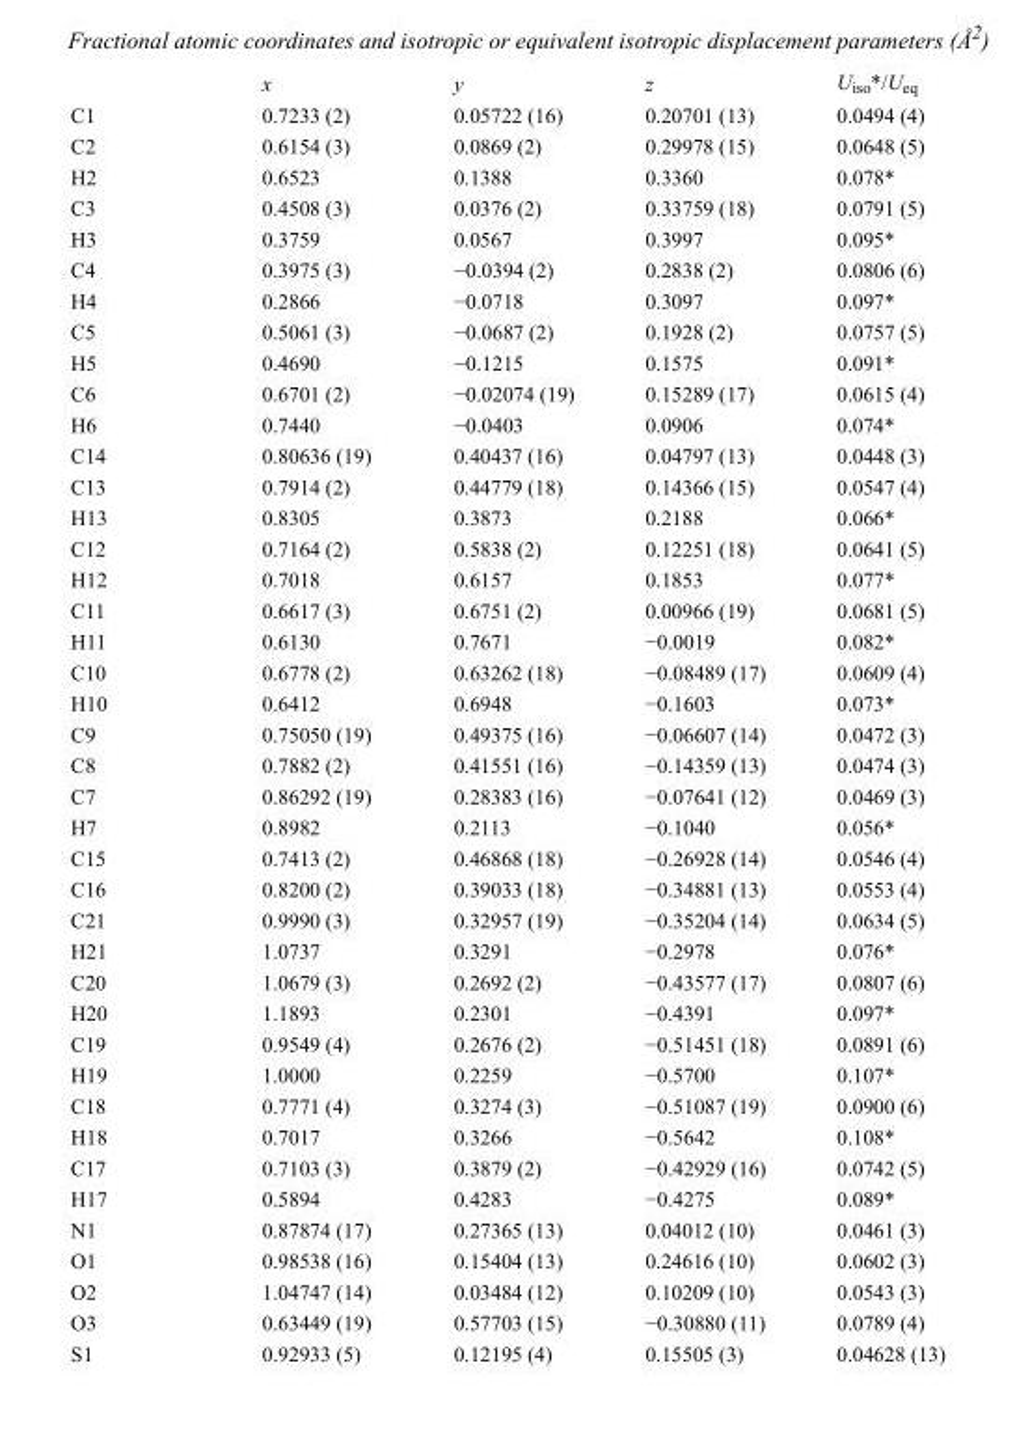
<table><thead><tr><td></td><td>x</td><td>y</td><td>z</td><td>U<sub>iso</sub>*/U<sub>eq</sub></td></tr></thead><tbody><tr><td>C1</td><td>0.7233 (2)</td><td>0.05722 (16)</td><td>0.20701 (13)</td><td>0.0494 (4)</td></tr><tr><td>C2</td><td>0.6154 (3)</td><td>0.0869 (2)</td><td>0.29978 (15)</td><td>0.0648 (5)</td></tr><tr><td>H2</td><td>0.6523</td><td>0.1388</td><td>0.3360</td><td>0.078*</td></tr><tr><td>C3</td><td>0.4508 (3)</td><td>0.0376 (2)</td><td>0.33759 (18)</td><td>0.0791 (5)</td></tr><tr><td>H3</td><td>0.3759</td><td>0.0567</td><td>0.3997</td><td>0.095*</td></tr><tr><td>C4</td><td>0.3975 (3)</td><td>−0.0394 (2)</td><td>0.2838 (2)</td><td>0.0806 (6)</td></tr><tr><td>H4</td><td>0.2866</td><td>−0.0718</td><td>0.3097</td><td>0.097*</td></tr><tr><td>C5</td><td>0.5061 (3)</td><td>−0.0687 (2)</td><td>0.1928 (2)</td><td>0.0757 (5)</td></tr><tr><td>H5</td><td>0.4690</td><td>−0.1215</td><td>0.1575</td><td>0.091*</td></tr><tr><td>C6</td><td>0.6701 (2)</td><td>−0.02074 (19)</td><td>0.15289 (17)</td><td>0.0615 (4)</td></tr><tr><td>H6</td><td>0.7440</td><td>−0.0403</td><td>0.0906</td><td>0.074*</td></tr><tr><td>C14</td><td>0.80636 (19)</td><td>0.40437 (16)</td><td>0.04797 (13)</td><td>0.0448 (3)</td></tr><tr><td>C13</td><td>0.7914 (2)</td><td>0.44779 (18)</td><td>0.14366 (15)</td><td>0.0547 (4)</td></tr><tr><td>H13</td><td>0.8305</td><td>0.3873</td><td>0.2188</td><td>0.066*</td></tr><tr><td>C12</td><td>0.7164 (2)</td><td>0.5838 (2)</td><td>0.12251 (18)</td><td>0.0641 (5)</td></tr><tr><td>H12</td><td>0.7018</td><td>0.6157</td><td>0.1853</td><td>0.077*</td></tr><tr><td>C11</td><td>0.6617 (3)</td><td>0.6751 (2)</td><td>0.00966 (19)</td><td>0.0681 (5)</td></tr><tr><td>H11</td><td>0.6130</td><td>0.7671</td><td>−0.0019</td><td>0.082*</td></tr><tr><td>C10</td><td>0.6778 (2)</td><td>0.63262 (18)</td><td>−0.08489 (17)</td><td>0.0609 (4)</td></tr><tr><td>H10</td><td>0.6412</td><td>0.6948</td><td>−0.1603</td><td>0.073*</td></tr><tr><td>C9</td><td>0.75050 (19)</td><td>0.49375 (16)</td><td>−0.06607 (14)</td><td>0.0472 (3)</td></tr><tr><td>C8</td><td>0.7882 (2)</td><td>0.41551 (16)</td><td>−0.14359 (13)</td><td>0.0474 (3)</td></tr><tr><td>C7</td><td>0.86292 (19)</td><td>0.28383 (16)</td><td>−0.07641 (12)</td><td>0.0469 (3)</td></tr><tr><td>H7</td><td>0.8982</td><td>0.2113</td><td>−0.1040</td><td>0.056*</td></tr><tr><td>C15</td><td>0.7413 (2)</td><td>0.46868 (18)</td><td>−0.26928 (14)</td><td>0.0546 (4)</td></tr><tr><td>C16</td><td>0.8200 (2)</td><td>0.39033 (18)</td><td>−0.34881 (13)</td><td>0.0553 (4)</td></tr><tr><td>C21</td><td>0.9990 (3)</td><td>0.32957 (19)</td><td>−0.35204 (14)</td><td>0.0634 (5)</td></tr><tr><td>H21</td><td>1.0737</td><td>0.3291</td><td>−0.2978</td><td>0.076*</td></tr><tr><td>C20</td><td>1.0679 (3)</td><td>0.2692 (2)</td><td>−0.43577 (17)</td><td>0.0807 (6)</td></tr><tr><td>H20</td><td>1.1893</td><td>0.2301</td><td>−0.4391</td><td>0.097*</td></tr><tr><td>C19</td><td>0.9549 (4)</td><td>0.2676 (2)</td><td>−0.51451 (18)</td><td>0.0891 (6)</td></tr><tr><td>H19</td><td>1.0000</td><td>0.2259</td><td>−0.5700</td><td>0.107*</td></tr><tr><td>C18</td><td>0.7771 (4)</td><td>0.3274 (3)</td><td>−0.51087 (19)</td><td>0.0900 (6)</td></tr><tr><td>H18</td><td>0.7017</td><td>0.3266</td><td>−0.5642</td><td>0.108*</td></tr><tr><td>C17</td><td>0.7103 (3)</td><td>0.3879 (2)</td><td>−0.42929 (16)</td><td>0.0742 (5)</td></tr><tr><td>H17</td><td>0.5894</td><td>0.4283</td><td>−0.4275</td><td>0.089*</td></tr><tr><td>N1</td><td>0.87874 (17)</td><td>0.27365 (13)</td><td>0.04012 (10)</td><td>0.0461 (3)</td></tr><tr><td>O1</td><td>0.98538 (16)</td><td>0.15404 (13)</td><td>0.24616 (10)</td><td>0.0602 (3)</td></tr><tr><td>O2</td><td>1.04747 (14)</td><td>0.03484 (12)</td><td>0.10209 (10)</td><td>0.0543 (3)</td></tr><tr><td>O3</td><td>0.63449 (19)</td><td>0.57703 (15)</td><td>−0.30880 (11)</td><td>0.0789 (4)</td></tr><tr><td>S1</td><td>0.92933 (5)</td><td>0.12195 (4)</td><td>0.15505 (3)</td><td>0.04628 (13)</td></tr></tbody></table>